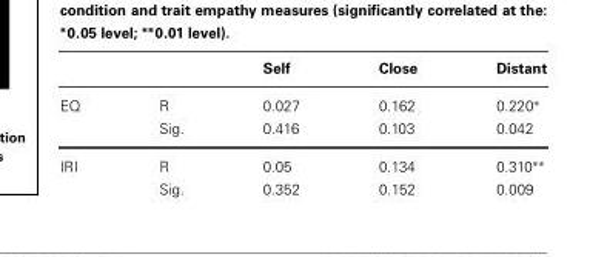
<table><thead><tr><td></td><td></td><td>Self</td><td>Close</td><td>Distant</td></tr></thead><tbody><tr><td rowspan="2">EQ</td><td>R</td><td>0.027</td><td>0.162</td><td>0.220∗</td></tr><tr><td>Sig.</td><td>0.416</td><td>0.103</td><td>0.042</td></tr><tr><td rowspan="2">IRI</td><td>R</td><td>0.05</td><td>0.134</td><td>0.310∗∗</td></tr><tr><td>Sig.</td><td>0.352</td><td>0.152</td><td>0.009</td></tr></tbody></table>